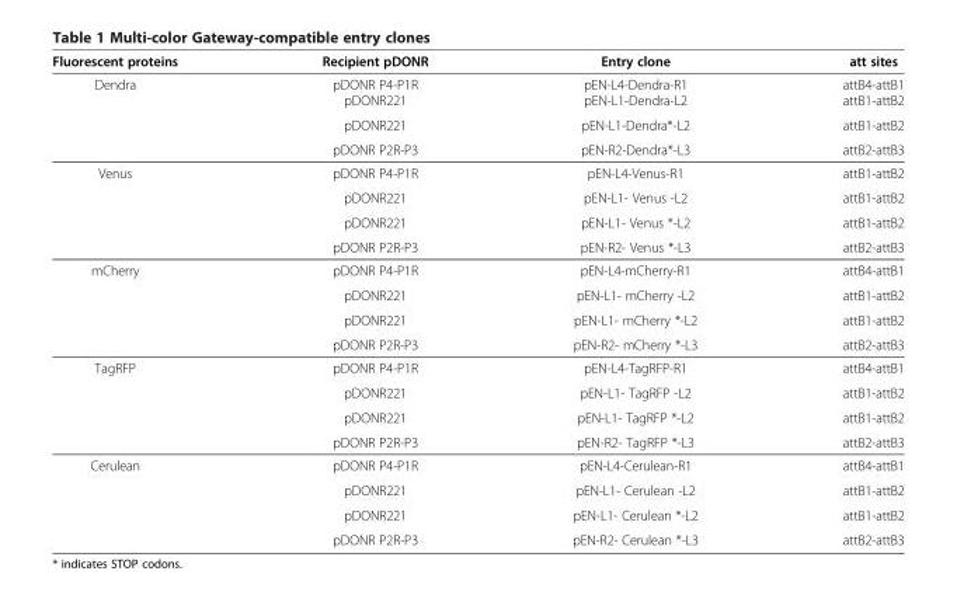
<table><thead><tr><td>Fluorescent proteins</td><td>Recipient pDONR</td><td>Entry clone</td><td>att sites</td></tr></thead><tbody><tr><td rowspan="4">Dendra</td><td>pDONR P4-P1R</td><td>pEN-L4-Dendra-R1</td><td>attB4-attB1</td></tr><tr><td>pDONR221</td><td>pEN-L1-Dendra-L2</td><td>attB1-attB2</td></tr><tr><td>pDONR221</td><td>pEN-L1-Dendra*-L2</td><td>attB1-attB2</td></tr><tr><td>pDONR P2R-P3</td><td>pEN-R2-Dendra*-L3</td><td>attB2-attB3</td></tr><tr><td rowspan="4">Venus</td><td>pDONR P4-P1R</td><td>pEN-L4-Venus-R1</td><td>attB1-attB2</td></tr><tr><td>pDONR221</td><td>pEN-L1- Venus -L2</td><td>attB1-attB2</td></tr><tr><td>pDONR221</td><td>pEN-L1- Venus *-L2</td><td>attB1-attB2</td></tr><tr><td>pDONR P2R-P3</td><td>pEN-R2- Venus *-L3</td><td>attB2-attB3</td></tr><tr><td rowspan="4">mCherry</td><td>pDONR P4-P1R</td><td>pEN-L4-mCherry-R1</td><td>attB4-attB1</td></tr><tr><td>pDONR221</td><td>pEN-L1- mCherry -L2</td><td>attB1-attB2</td></tr><tr><td>pDONR221</td><td>pEN-L1- mCherry *-L2</td><td>attB1-attB2</td></tr><tr><td>pDONR P2R-P3</td><td>pEN-R2- mCherry *-L3</td><td>attB2-attB3</td></tr><tr><td rowspan="4">TagRFP</td><td>pDONR P4-P1R</td><td>pEN-L4-TagRFP-R1</td><td>attB4-attB1</td></tr><tr><td>pDONR221</td><td>pEN-L1- TagRFP -L2</td><td>attB1-attB2</td></tr><tr><td>pDONR221</td><td>pEN-L1- TagRFP *-L2</td><td>attB1-attB2</td></tr><tr><td>pDONR P2R-P3</td><td>pEN-R2- TagRFP *-L3</td><td>attB2-attB3</td></tr><tr><td rowspan="4">Cerulean</td><td>pDONR P4-P1R</td><td>pEN-L4-Cerulean-R1</td><td>attB4-attB1</td></tr><tr><td>pDONR221</td><td>pEN-L1- Cerulean -L2</td><td>attB1-attB2</td></tr><tr><td>pDONR221</td><td>pEN-L1- Cerulean *-L2</td><td>attB1-attB2</td></tr><tr><td>pDONR P2R-P3</td><td>pEN-R2- Cerulean *-L3</td><td>attB2-attB3</td></tr></tbody></table>